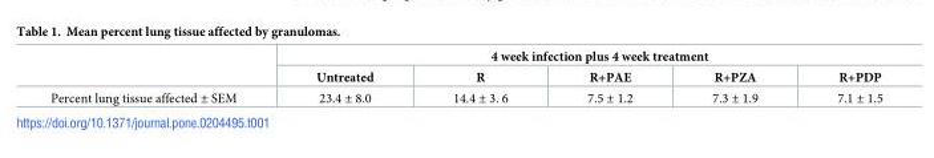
<table><thead><tr><td rowspan="2"></td><td colspan="5">4 week infection plus 4 week treatment</td></tr><tr><td>Untreated</td><td>R</td><td>R+PAE</td><td>R+PZA</td><td>R+PDP</td></tr></thead><tbody><tr><td>Percent lung tissue affected ± SEM</td><td>23.4 ± 8.0</td><td>14.4 ± 3. 6</td><td>7.5 ± 1.2</td><td>7.3 ± 1.9</td><td>7.1 ± 1.5</td></tr></tbody></table>